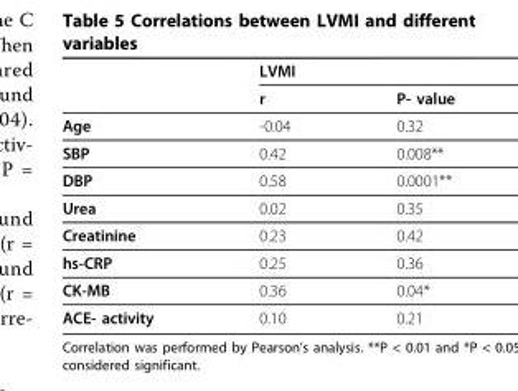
<table><thead><tr><td rowspan="2"></td><td colspan="2">LVMI</td></tr><tr><td>r</td><td>P- value</td></tr></thead><tbody><tr><td>Age</td><td>-0.04</td><td>0.32</td></tr><tr><td>SBP</td><td>0.42</td><td>0.008**</td></tr><tr><td>DBP</td><td>0.58</td><td>0.0001**</td></tr><tr><td>Urea</td><td>0.02</td><td>0.35</td></tr><tr><td>Creatinine</td><td>0.23</td><td>0.42</td></tr><tr><td>hs-CRP</td><td>0.25</td><td>0.36</td></tr><tr><td>CK-MB</td><td>0.36</td><td>0.04*</td></tr><tr><td>ACE- activity</td><td>0.10</td><td>0.21</td></tr></tbody></table>